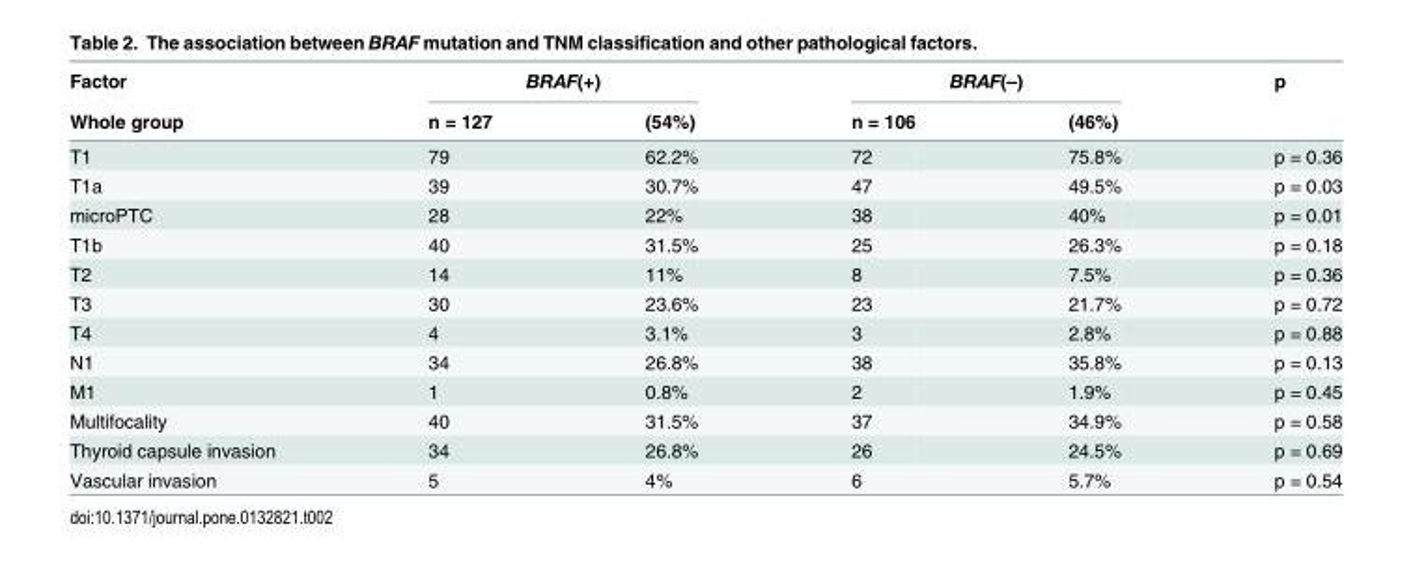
<table><thead><tr><td rowspan="2">Factor Whole group</td><td colspan="2">BRAF(+)</td><td colspan="2">BRAF(–)</td><td rowspan="2">p</td></tr><tr><td>n = 127</td><td>(54%)</td><td>n = 106</td><td>(46%)</td></tr></thead><tbody><tr><td>T1</td><td>79</td><td>62.2%</td><td>72</td><td>75.8%</td><td>p = 0.36</td></tr><tr><td>T1a</td><td>39</td><td>30.7%</td><td>47</td><td>49.5%</td><td>p = 0.03</td></tr><tr><td>microPTC</td><td>28</td><td>22%</td><td>38</td><td>40%</td><td>p = 0.01</td></tr><tr><td>T1b</td><td>40</td><td>31.5%</td><td>25</td><td>26.3%</td><td>p = 0.18</td></tr><tr><td>T2</td><td>14</td><td>11%</td><td>8</td><td>7.5%</td><td>p = 0.36</td></tr><tr><td>T3</td><td>30</td><td>23.6%</td><td>23</td><td>21.7%</td><td>p = 0.72</td></tr><tr><td>T4</td><td>4</td><td>3.1%</td><td>3</td><td>2.8%</td><td>p = 0.88</td></tr><tr><td>N1</td><td>34</td><td>26.8%</td><td>38</td><td>35.8%</td><td>p = 0.13</td></tr><tr><td>M1</td><td>1</td><td>0.8%</td><td>2</td><td>1.9%</td><td>p = 0.45</td></tr><tr><td>Multifocality</td><td>40</td><td>31.5%</td><td>37</td><td>34.9%</td><td>p = 0.58</td></tr><tr><td>Thyroid capsule invasion</td><td>34</td><td>26.8%</td><td>26</td><td>24.5%</td><td>p = 0.69</td></tr><tr><td>Vascular invasion</td><td>5</td><td>4%</td><td>6</td><td>5.7%</td><td>p = 0.54</td></tr></tbody></table>